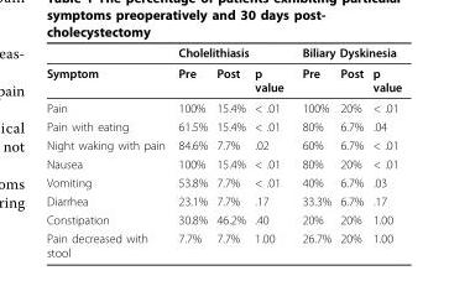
<table><thead><tr><td rowspan="2">Symptom</td><td colspan="3">Cholelithiasis</td><td colspan="3">Biliary Dyskinesia</td></tr><tr><td>Pre</td><td>Post</td><td>p value</td><td>Pre</td><td>Post</td><td>p value</td></tr></thead><tbody><tr><td>Pain</td><td>100%</td><td>15.4%</td><td>&lt; .01</td><td>100%</td><td>20%</td><td>&lt; .01</td></tr><tr><td>Pain with eating</td><td>61.5%</td><td>15.4%</td><td>&lt; .01</td><td>80%</td><td>6.7%</td><td>.04</td></tr><tr><td>Night waking with pain</td><td>84.6%</td><td>7.7%</td><td>.02</td><td>60%</td><td>6.7%</td><td>&lt; .01</td></tr><tr><td>Nausea</td><td>100%</td><td>15.4%</td><td>&lt; .01</td><td>80%</td><td>20%</td><td>&lt; .01</td></tr><tr><td>Vomiting</td><td>53.8%</td><td>7.7%</td><td>&lt; .01</td><td>40%</td><td>6.7%</td><td>.03</td></tr><tr><td>Diarrhea</td><td>23.1%</td><td>7.7%</td><td>.17</td><td>33.3%</td><td>6.7%</td><td>.17</td></tr><tr><td>Constipation</td><td>30.8%</td><td>46.2%</td><td>.40</td><td>20%</td><td>20%</td><td>1.00</td></tr><tr><td>Pain decreased with stool</td><td>7.7%</td><td>7.7%</td><td>1.00</td><td>26.7%</td><td>20%</td><td>1.00</td></tr></tbody></table>